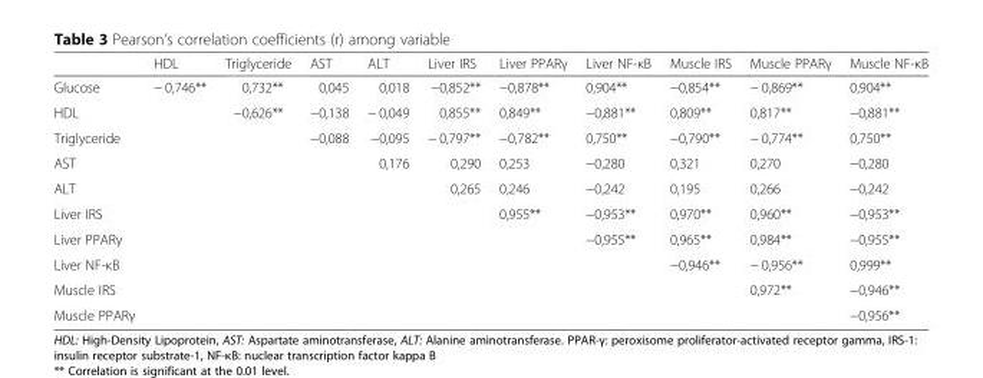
<table><thead><tr><td></td><td>HDL</td><td>Triglyceride</td><td>AST</td><td>ALT</td><td>Liver IRS</td><td>Liver PPARγ</td><td>Liver NF-κB</td><td>Muscle IRS</td><td>Muscle PPARγ</td><td>Muscle NF-κB</td></tr></thead><tbody><tr><td>Glucose</td><td>− 0,746**</td><td>0,732**</td><td>0,045</td><td>0,018</td><td>−0,852**</td><td>−0,878**</td><td>0,904**</td><td>−0,854**</td><td>− 0,869**</td><td>0,904**</td></tr><tr><td>HDL</td><td></td><td>−0,626**</td><td>−0,138</td><td>− 0,049</td><td>0,855**</td><td>0,849**</td><td>−0,881**</td><td>0,809**</td><td>0,817**</td><td>−0,881**</td></tr><tr><td>Triglyceride</td><td></td><td></td><td>−0,088</td><td>−0,095</td><td>− 0,797**</td><td>−0,782**</td><td>0,750**</td><td>−0,790**</td><td>− 0,774**</td><td>0,750**</td></tr><tr><td>AST</td><td></td><td></td><td></td><td>0,176</td><td>0,290</td><td>0,253</td><td>−0,280</td><td>0,321</td><td>0,270</td><td>−0,280</td></tr><tr><td>ALT</td><td></td><td></td><td></td><td></td><td>0,265</td><td>0,246</td><td>−0,242</td><td>0,195</td><td>0,266</td><td>−0,242</td></tr><tr><td>Liver IRS</td><td></td><td></td><td></td><td></td><td></td><td>0,955**</td><td>−0,953**</td><td>0,970**</td><td>0,960**</td><td>−0,953**</td></tr><tr><td>Liver PPARγ</td><td></td><td></td><td></td><td></td><td></td><td></td><td>−0,955**</td><td>0,965**</td><td>0,984**</td><td>−0,955**</td></tr><tr><td>Liver NF-κB</td><td></td><td></td><td></td><td></td><td></td><td></td><td></td><td>−0,946**</td><td>− 0,956**</td><td>0,999**</td></tr><tr><td>Muscle IRS</td><td></td><td></td><td></td><td></td><td></td><td></td><td></td><td></td><td>0,972**</td><td>−0,946**</td></tr><tr><td>Muscle PPARγ</td><td></td><td></td><td></td><td></td><td></td><td></td><td></td><td></td><td></td><td>−0,956**</td></tr></tbody></table>